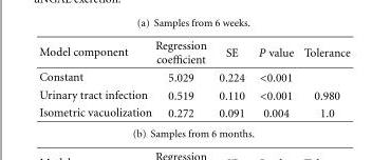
<table><thead><tr><td>Model component</td><td>Regression coefficient</td><td>SE</td><td>P value</td><td>Tolerance</td></tr></thead><tbody><tr><td>Constant</td><td>5.029</td><td>0.224</td><td>&lt;0.001</td><td></td></tr><tr><td>Urinary tract infection</td><td>0.519</td><td>0.110</td><td>&lt;0.001</td><td>0.980</td></tr><tr><td>Isometric vacuolization</td><td>0.272</td><td>0.091</td><td>0.004</td><td>1.0</td></tr></tbody></table>